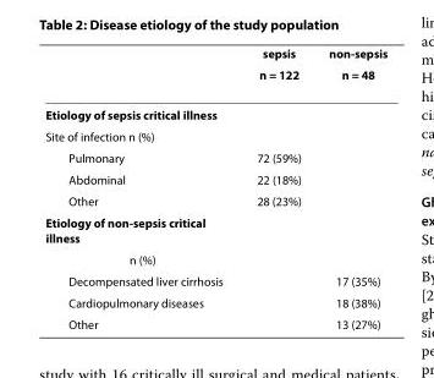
<table><thead><tr><td rowspan="2"></td><td rowspan="2">sepsis n = 122</td><td rowspan="2">non-sepsis n = 48</td></tr><tr></tr></thead><tbody><tr><td colspan="3">Etiology of sepsis critical illness</td></tr><tr><td colspan="3">Site of infection n (%)</td></tr><tr><td>Pulmonary</td><td>72 (59%)</td><td></td></tr><tr><td>Abdominal</td><td>22 (18%)</td><td></td></tr><tr><td>Other</td><td>28 (23%)</td><td></td></tr><tr><td colspan="3">Etiology of non-sepsis critical illness</td></tr><tr><td colspan="3">n (%)</td></tr><tr><td>Decompensated liver cirrhosis</td><td></td><td>17 (35%)</td></tr><tr><td>Cardiopulmonary diseases</td><td></td><td>18 (38%)</td></tr><tr><td>Other</td><td></td><td>13 (27%)</td></tr></tbody></table>